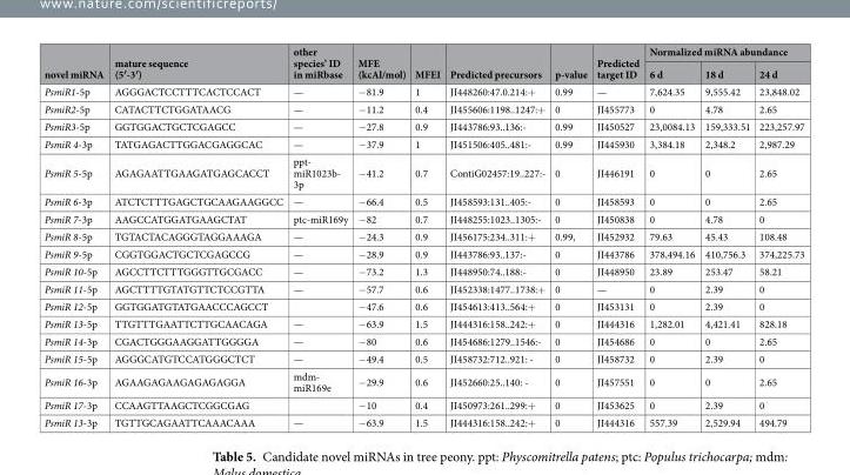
<table><thead><tr><td rowspan="2">novel miRNA</td><td rowspan="2">mature sequence (5′-3′)</td><td rowspan="2">other species’ ID in miRbase</td><td rowspan="2">MFE (kcAl/mol)</td><td rowspan="2">MFEI</td><td rowspan="2">Predicted precursors</td><td rowspan="2">p-value</td><td rowspan="2">Predicted target ID</td><td colspan="3">Normalized miRNA abundance</td></tr><tr><td>6 d</td><td>18 d</td><td>24 d</td></tr></thead><tbody><tr><td>PsmiR1-5p</td><td>AGGGACTCCTTTCACTCCACT</td><td>—</td><td>−81.9</td><td>1</td><td>JI448260:47.0.214:+</td><td>0.99</td><td>—</td><td>7,624.35</td><td>9,555.42</td><td>23,848.02</td></tr><tr><td>PsmiR2-5p</td><td>CATACTTCTGGATAACG</td><td>—</td><td>−11.2</td><td>0.4</td><td>JI455606:1198..1247:+</td><td>0</td><td>JI455773</td><td>0</td><td>4.78</td><td>2.65</td></tr><tr><td>PsmiR3-5p</td><td>GGTGGACTGCTCGAGCC</td><td>—</td><td>−27.8</td><td>0.9</td><td>JI443786:93..136:-</td><td>0.99</td><td>JI450527</td><td>23,0084.13</td><td>159,333.51</td><td>223,257.97</td></tr><tr><td>PsmiR 4-3p</td><td>TATGAGACTTGGACGAGGCAC</td><td>—</td><td>−37.9</td><td>1</td><td>JI451506:405..481:-</td><td>0.99</td><td>JI445930</td><td>3,384.18</td><td>2,348.2</td><td>2,987.29</td></tr><tr><td>PsmiR 5-5p</td><td>AGAGAATTGAAGATGAGCACCT</td><td>ppt- miR1023b- 3p</td><td>−41.2</td><td>0.7</td><td>ContiG02457:19..227:-</td><td>0</td><td>JI446191</td><td>0</td><td>0</td><td>2.65</td></tr><tr><td>PsmiR 6-3p</td><td>ATCTCTTTGAGCTGCAAGAAGGCC</td><td>—</td><td>−66.4</td><td>0.5</td><td>JI458593:131..405:-</td><td>0</td><td>JI458593</td><td>0</td><td>0</td><td>2.65</td></tr><tr><td>PsmiR 7-3p</td><td>AAGCCATGGATGAAGCTAT</td><td>ptc-miR169y</td><td>−82</td><td>0.7</td><td>JI448255:1023..1305:-</td><td>0</td><td>JI450838</td><td>0</td><td>4.78</td><td>0</td></tr><tr><td>PsmiR 8-5p</td><td>TGTACTACAGGGTAGGAAAGA</td><td>—</td><td>−24.3</td><td>0.9</td><td>JI456175:234..311:+</td><td>0.99,</td><td>JI452932</td><td>79.63</td><td>45.43</td><td>108.48</td></tr><tr><td>PsmiR 9-5p</td><td>CGGTGGACTGCTCGAGCCG</td><td>—</td><td>−28.9</td><td>0.9</td><td>JI443786:93..137:-</td><td>0</td><td>JI443786</td><td>378,494.16</td><td>410,756.3</td><td>374,225.73</td></tr><tr><td>PsmiR 10-5p</td><td>AGCCTTCTTTGGGTTGCGACC</td><td>—</td><td>−73.2</td><td>1.3</td><td>JI448950:74..188:-</td><td>0</td><td>JI448950</td><td>23.89</td><td>253.47</td><td>58.21</td></tr><tr><td>PsmiR 11-5p</td><td>AGCTTTTGTATGTTCTCCGTTA</td><td>—</td><td>−57.7</td><td>0.6</td><td>JI452338:1477..1738:+</td><td>0</td><td>—</td><td>0</td><td>2.39</td><td>0</td></tr><tr><td>PsmiR 12-5p</td><td>GGTGGATGTATGAACCCAGCCT</td><td></td><td>−47.6</td><td>0.6</td><td>JI454613:413..564:+</td><td>0</td><td>JI453131</td><td>0</td><td>2.39</td><td>0</td></tr><tr><td>PsmiR 13-5p</td><td>TTGTTTGAATTCTTGCAACAGA</td><td>—</td><td>−63.9</td><td>1.5</td><td>JI444316:158..242:+</td><td>0</td><td>JI444316</td><td>1,282.01</td><td>4,421.41</td><td>828.18</td></tr><tr><td>PsmiR 14-3p</td><td>CGACTGGGAAGGATTGGGGA</td><td>—</td><td>−80</td><td>0.6</td><td>JI454686:1279..1546:-</td><td>0</td><td>JI454686</td><td>0</td><td>0</td><td>2.65</td></tr><tr><td>PsmiR 15-5p</td><td>AGGGCATGTCCATGGGCTCT</td><td>—</td><td>−49.4</td><td>0.5</td><td>JI458732:712..921: -</td><td>0</td><td>JI458732</td><td>0</td><td>2.39</td><td>0</td></tr><tr><td>PsmiR 16-3p</td><td>AGAAGAGAAGAGAGAGGA</td><td>mdm- miR169e</td><td>−29.9</td><td>0.6</td><td>JI452660:25..140: -</td><td>0</td><td>JI457551</td><td>0</td><td>0</td><td>2.65</td></tr><tr><td>PsmiR 17-3p</td><td>CCAAGTTAAGCTCGGCGAG</td><td></td><td>−10</td><td>0.4</td><td>JI450973:261..299:+</td><td>0</td><td>JI453625</td><td>0</td><td>2.39</td><td>0</td></tr><tr><td>PsmiR 13-3p</td><td>TGTTGCAGAATTCAAACAAA</td><td>—</td><td>−63.9</td><td>1.5</td><td>JI444316:158..242:+</td><td>0</td><td>JI444316</td><td>557.39</td><td>2,529.94</td><td>494.79</td></tr></tbody></table>